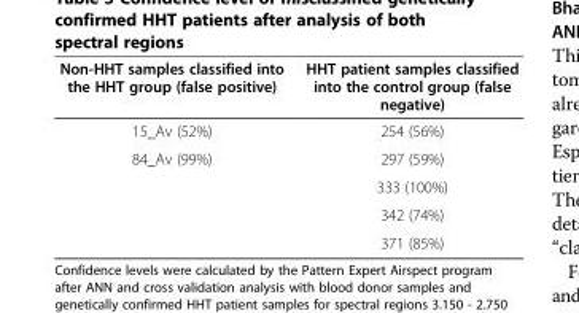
<table><thead><tr><td>Non-HHT samples classified into the HHT group (false positive)</td><td>HHT patient samples classified into the control group (false negative)</td></tr></thead><tbody><tr><td>15_Av (52%)</td><td>254 (56%)</td></tr><tr><td rowspan="4">84_Av (99%)</td><td>297 (59%)</td></tr><tr><td>333 (100%)</td></tr><tr><td>342 (74%)</td></tr><tr><td>371 (85%)</td></tr></tbody></table>